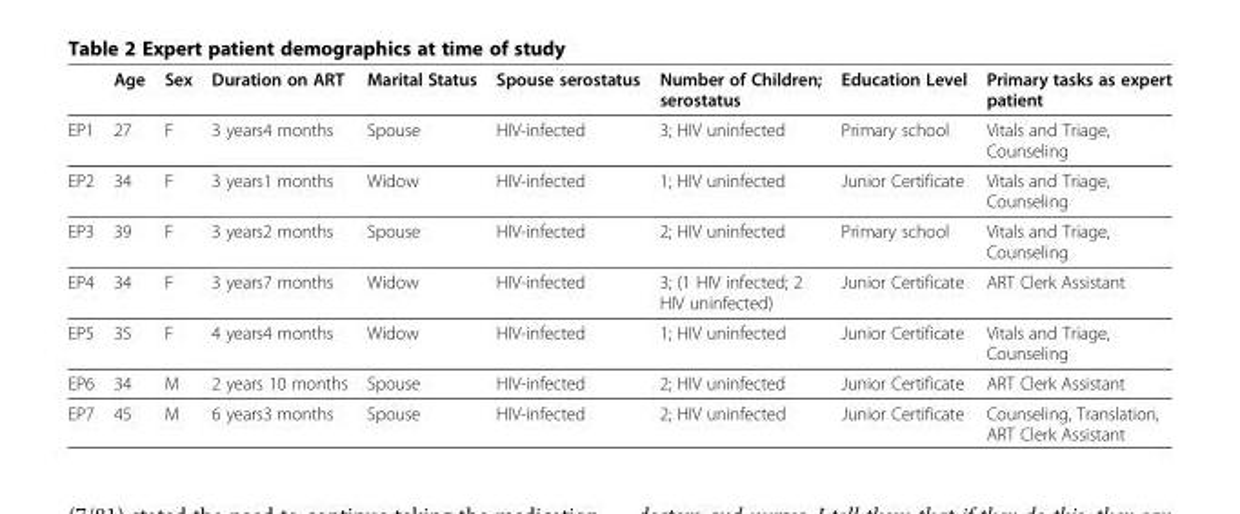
<table><thead><tr><td></td><td>Age</td><td>Sex</td><td>Duration on ART</td><td>Marital Status</td><td>Spouse serostatus</td><td>Number of Children; serostatus</td><td>Education Level</td><td>Primary tasks as expert patient</td></tr></thead><tbody><tr><td>EP1</td><td>27</td><td>F</td><td>3 years4 months</td><td>Spouse</td><td>HIV-infected</td><td>3; HIV uninfected</td><td>Primary school</td><td>Vitals and Triage, Counseling</td></tr><tr><td>EP2</td><td>34</td><td>F</td><td>3 years1 months</td><td>Widow</td><td>HIV-infected</td><td>1; HIV uninfected</td><td>Junior Certificate</td><td>Vitals and Triage, Counseling</td></tr><tr><td>EP3</td><td>39</td><td>F</td><td>3 years2 months</td><td>Spouse</td><td>HIV-infected</td><td>2; HIV uninfected</td><td>Primary school</td><td>Vitals and Triage, Counseling</td></tr><tr><td>EP4</td><td>34</td><td>F</td><td>3 years7 months</td><td>Widow</td><td>HIV-infected</td><td>3; (1 HIV infected; 2 HIV uninfected)</td><td>Junior Certificate</td><td>ART Clerk Assistant</td></tr><tr><td>EP5</td><td>35</td><td>F</td><td>4 years4 months</td><td>Widow</td><td>HIV-infected</td><td>1; HIV uninfected</td><td>Junior Certificate</td><td>Vitals and Triage, Counseling</td></tr><tr><td>EP6</td><td>34</td><td>M</td><td>2 years 10 months</td><td>Spouse</td><td>HIV-infected</td><td>2; HIV uninfected</td><td>Junior Certificate</td><td>ART Clerk Assistant</td></tr><tr><td>EP7</td><td>45</td><td>M</td><td>6 years3 months</td><td>Spouse</td><td>HIV-infected</td><td>2; HIV uninfected</td><td>Junior Certificate</td><td>Counseling, Translation, ART Clerk Assistant</td></tr></tbody></table>